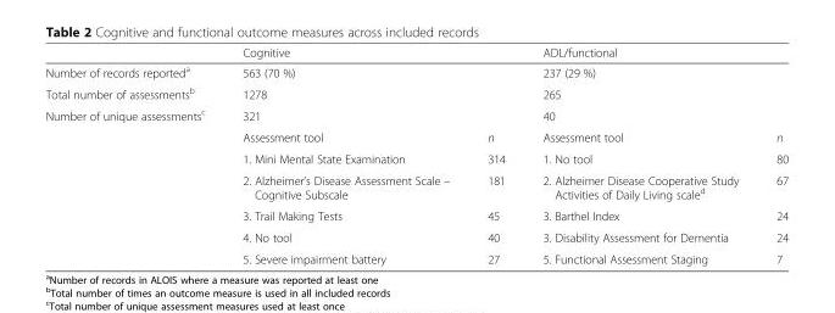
<table><thead><tr><td></td><td colspan="2">Cognitive</td><td colspan="2">ADL/functional</td></tr></thead><tbody><tr><td>Number of records reported<sup>a</sup></td><td colspan="2">563 (70 %)</td><td colspan="2">237 (29 %)</td></tr><tr><td>Total number of assessments<sup>b</sup></td><td colspan="2">1278</td><td colspan="2">265</td></tr><tr><td rowspan="7">Number of unique assessments<sup>c</sup></td><td colspan="2">321</td><td colspan="2">40</td></tr><tr><td>Assessment tool</td><td>n</td><td>Assessment tool</td><td>n</td></tr><tr><td>1. Mini Mental State Examination</td><td>314</td><td>1. No tool</td><td>80</td></tr><tr><td>2. Alzheimer’s Disease Assessment Scale – Cognitive Subscale</td><td>181</td><td>2. Alzheimer Disease Cooperative Study Activities of Daily Living scale<sup>d</sup></td><td>67</td></tr><tr><td>3. Trail Making Tests</td><td>45</td><td>3. Barthel Index</td><td>24</td></tr><tr><td>4. No tool</td><td>40</td><td>3. Disability Assessment for Dementia</td><td>24</td></tr><tr><td>5. Severe impairment battery</td><td>27</td><td>5. Functional Assessment Staging</td><td>7</td></tr></tbody></table>